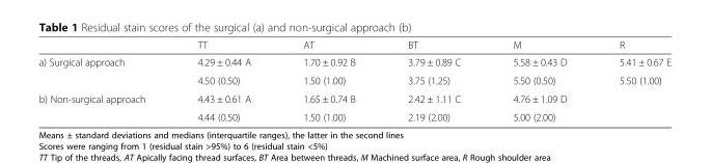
<table><thead><tr><td></td><td>TT</td><td>AT</td><td>BT</td><td>M</td><td>R</td></tr></thead><tbody><tr><td rowspan="2">a) Surgical approach</td><td>4.29 ± 0.44 A</td><td>1.70 ± 0.92 B</td><td>3.79 ± 0.89 C</td><td>5.58 ± 0.43 D</td><td>5.41 ± 0.67 E</td></tr><tr><td>4.50 (0.50)</td><td>1.50 (1.00)</td><td>3.75 (1.25)</td><td>5.50 (0.50)</td><td>5.50 (1.00)</td></tr><tr><td rowspan="2">b) Non-surgical approach</td><td>4.43 ± 0.61 A</td><td>1.65 ± 0.74 B</td><td>2.42 ± 1.11 C</td><td>4.76 ± 1.09 D</td><td></td></tr><tr><td>4.44 (0.50)</td><td>1.50 (1.00)</td><td>2.19 (2.00)</td><td>5.00 (2.00)</td><td></td></tr></tbody></table>